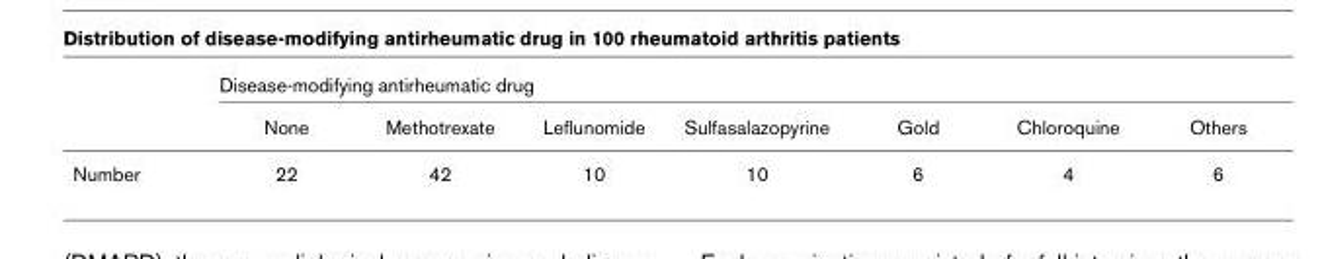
<table><thead><tr><td rowspan="2"></td><td colspan="7">Disease-modifying antirheumatic drug</td></tr><tr><td>None</td><td>Methotrexate</td><td>Leflunomide</td><td>Sulfasalazopyrine</td><td>Gold</td><td>Chloroquine</td><td>Others</td></tr></thead><tbody><tr><td>Number</td><td>22</td><td>42</td><td>10</td><td>10</td><td>6</td><td>4</td><td>6</td></tr></tbody></table>